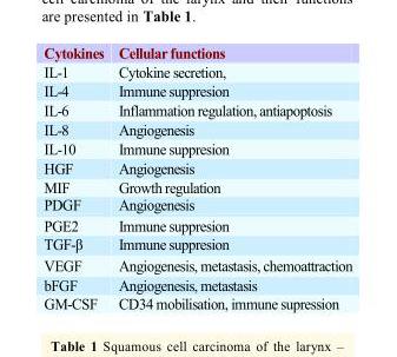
<table><thead><tr><td>Cytokines</td><td>Cellular functions</td></tr></thead><tbody><tr><td>IL-1</td><td>Cytokine secretion,</td></tr><tr><td>IL-4</td><td>Immune suppresion</td></tr><tr><td>IL-6</td><td>Inflammation regulation, antiapoptosis</td></tr><tr><td>IL-8</td><td>Angiogenesis</td></tr><tr><td>IL-10</td><td>Immune suppresion</td></tr><tr><td>HGF</td><td>Angiogenesis</td></tr><tr><td>MIF</td><td>Growth regulation</td></tr><tr><td>PDGF</td><td>Angiogenesis</td></tr><tr><td>PGE2</td><td>Immune suppresion</td></tr><tr><td>TGF-β</td><td>Immune suppresion</td></tr><tr><td>VEGF</td><td>Angiogenesis, metastasis, chemoattraction</td></tr><tr><td>bFGF</td><td>Angiogenesis, metastasis</td></tr><tr><td>GM-CSF</td><td>CD34 mobilisation, immune supression</td></tr></tbody></table>